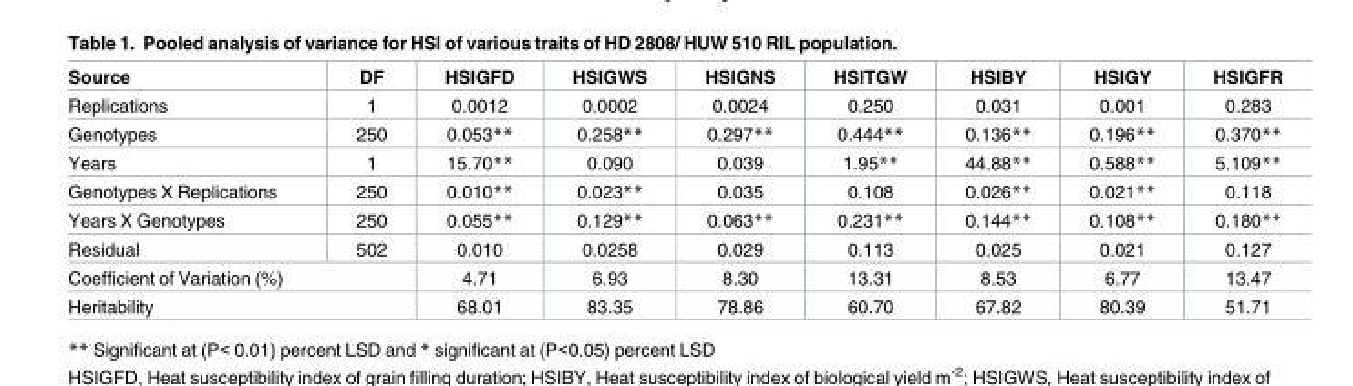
<table><thead><tr><td>Source</td><td>DF</td><td>HSIGFD</td><td>HSIGWS</td><td>HSIGNS</td><td>HSITGW</td><td>HSIBY</td><td>HSIGY</td><td>HSIGFR</td></tr></thead><tbody><tr><td>Replications</td><td>1</td><td>0.0012</td><td>0.0002</td><td>0.0024</td><td>0.250</td><td>0.031</td><td>0.001</td><td>0.283</td></tr><tr><td>Genotypes</td><td>250</td><td>0.053**</td><td>0.258**</td><td>0.297**</td><td>0.444**</td><td>0.136**</td><td>0.196**</td><td>0.370**</td></tr><tr><td>Years</td><td>1</td><td>15.70**</td><td>0.090</td><td>0.039</td><td>1.95**</td><td>44.88**</td><td>0.588**</td><td>5.109**</td></tr><tr><td>Genotypes X Replications</td><td>250</td><td>0.010**</td><td>0.023**</td><td>0.035</td><td>0.108</td><td>0.026**</td><td>0.021**</td><td>0.118</td></tr><tr><td>Years X Genotypes</td><td>250</td><td>0.055**</td><td>0.129**</td><td>0.063**</td><td>0.231**</td><td>0.144**</td><td>0.108**</td><td>0.180**</td></tr><tr><td>Residual</td><td>502</td><td>0.010</td><td>0.0258</td><td>0.029</td><td>0.113</td><td>0.025</td><td>0.021</td><td>0.127</td></tr><tr><td colspan="2">Coefficient of Variation (%)</td><td>4.71</td><td>6.93</td><td>8.30</td><td>13.31</td><td>8.53</td><td>6.77</td><td>13.47</td></tr><tr><td colspan="2">Heritability</td><td>68.01</td><td>83.35</td><td>78.86</td><td>60.70</td><td>67.82</td><td>80.39</td><td>51.71</td></tr></tbody></table>